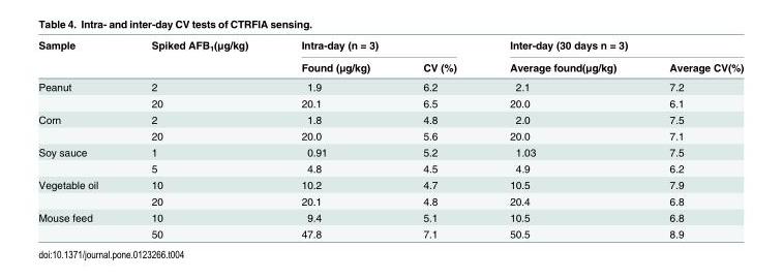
<table><thead><tr><td rowspan="2">Sample</td><td rowspan="2">Spiked AFB<sub>1</sub>(μg/kg)</td><td rowspan="2">Intra-day (n = 3) Found (μg/kg)</td><td rowspan="2">CV (%)</td><td rowspan="2">Inter-day (30 days n = 3) Average found(μg/kg)</td><td rowspan="2">Average CV(%)</td></tr><tr></tr></thead><tbody><tr><td rowspan="2">Peanut</td><td>2</td><td>1.9</td><td>6.2</td><td>2.1</td><td>7.2</td></tr><tr><td>20</td><td>20.1</td><td>6.5</td><td>20.0</td><td>6.1</td></tr><tr><td rowspan="2">Corn</td><td>2</td><td>1.8</td><td>4.8</td><td>2.0</td><td>7.5</td></tr><tr><td>20</td><td>20.0</td><td>5.6</td><td>20.0</td><td>7.1</td></tr><tr><td rowspan="2">Soy sauce</td><td>1</td><td>0.91</td><td>5.2</td><td>1.03</td><td>7.5</td></tr><tr><td>5</td><td>4.8</td><td>4.5</td><td>4.9</td><td>6.2</td></tr><tr><td rowspan="2">Vegetable oil</td><td>10</td><td>10.2</td><td>4.7</td><td>10.5</td><td>7.9</td></tr><tr><td>20</td><td>20.1</td><td>4.8</td><td>20.4</td><td>6.8</td></tr><tr><td rowspan="2">Mouse feed</td><td>10</td><td>9.4</td><td>5.1</td><td>10.5</td><td>6.8</td></tr><tr><td>50</td><td>47.8</td><td>7.1</td><td>50.5</td><td>8.9</td></tr></tbody></table>